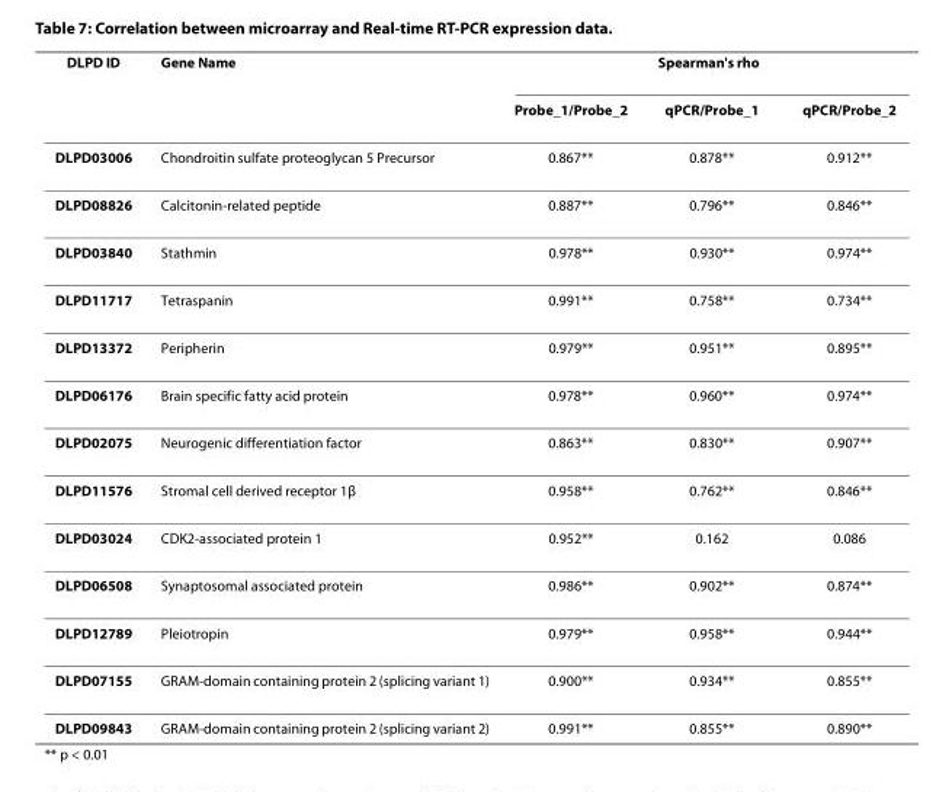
<table><thead><tr><td rowspan="2">DLPD ID</td><td rowspan="2">Gene Name</td><td colspan="3">Spearman&#x27;s rho</td></tr><tr><td>Probe_1/Probe_2</td><td>qPCR/Probe_1</td><td>qPCR/Probe_2</td></tr></thead><tbody><tr><td>DLPD03006</td><td>Chondroitin sulfate proteoglycan 5 Precursor</td><td>0.867**</td><td>0.878**</td><td>0.912**</td></tr><tr><td>DLPD08826</td><td>Calcitonin-related peptide</td><td>0.887**</td><td>0.796**</td><td>0.846**</td></tr><tr><td>DLPD03840</td><td>Stathmin</td><td>0.978**</td><td>0.930**</td><td>0.974**</td></tr><tr><td>DLPD11717</td><td>Tetraspanin</td><td>0.991**</td><td>0.758**</td><td>0.734**</td></tr><tr><td>DLPD13372</td><td>Peripherin</td><td>0.979**</td><td>0.951**</td><td>0.895**</td></tr><tr><td>DLPD06176</td><td>Brain specific fatty acid protein</td><td>0.978**</td><td>0.960**</td><td>0.974**</td></tr><tr><td>DLPD02075</td><td>Neurogenic differentiation factor</td><td>0.863**</td><td>0.830**</td><td>0.907**</td></tr><tr><td>DLPD11576</td><td>Stromal cell derived receptor 1β</td><td>0.958**</td><td>0.762**</td><td>0.846**</td></tr><tr><td>DLPD03024</td><td>CDK2-associated protein 1</td><td>0.952**</td><td>0.162</td><td>0.086</td></tr><tr><td>DLPD06508</td><td>Synaptosomal associated protein</td><td>0.986**</td><td>0.902**</td><td>0.874**</td></tr><tr><td>DLPD12789</td><td>Pleiotropin</td><td>0.979**</td><td>0.958**</td><td>0.944**</td></tr><tr><td>DLPD07155</td><td>GRAM-domain containing protein 2 (splicing variant 1)</td><td>0.900**</td><td>0.934**</td><td>0.855**</td></tr><tr><td>DLPD09843</td><td>GRAM-domain containing protein 2 (splicing variant 2)</td><td>0.991**</td><td>0.855**</td><td>0.890**</td></tr></tbody></table>